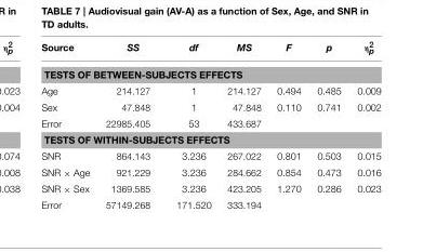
<table><thead><tr><td>Source</td><td>SS</td><td>df</td><td>MS</td><td>F</td><td>p</td><td>η<sup>2</sup><sub>p</sub></td></tr></thead><tbody><tr><td colspan="7">TESTS OF BETWEEN-SUBJECTS EFFECTS</td></tr><tr><td>Age</td><td>214.127</td><td>1</td><td>214.127</td><td>0.494</td><td>0.485</td><td>0.009</td></tr><tr><td>Sex</td><td>47.848</td><td>1</td><td>47.848</td><td>0.110</td><td>0.741</td><td>0.002</td></tr><tr><td>Error</td><td>22985.405</td><td>53</td><td>433.687</td><td></td><td></td><td></td></tr><tr><td colspan="7">TESTS OF WITHIN-SUBJECTS EFFECTS</td></tr><tr><td>SNR</td><td>864.143</td><td>3.236</td><td>267.022</td><td>0.801</td><td>0.503</td><td>0.015</td></tr><tr><td>SNR × Age</td><td>921.229</td><td>3.236</td><td>284.662</td><td>0.854</td><td>0.473</td><td>0.016</td></tr><tr><td>SNR × Sex</td><td>1369.585</td><td>3.236</td><td>423.205</td><td>1.270</td><td>0.286</td><td>0.023</td></tr><tr><td>Error</td><td>57149.268</td><td>171.520</td><td>333.194</td><td></td><td></td><td></td></tr></tbody></table>